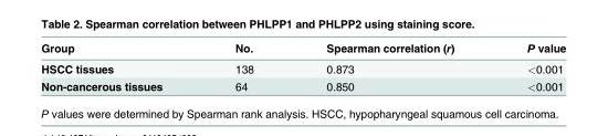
<table><thead><tr><td>Group</td><td>No.</td><td>Spearman correlation (r)</td><td>P value</td></tr></thead><tbody><tr><td>HSCC tissues</td><td>138</td><td>0.873</td><td>&lt;0.001</td></tr><tr><td>Non-cancerous tissues</td><td>64</td><td>0.850</td><td>&lt;0.001</td></tr></tbody></table>